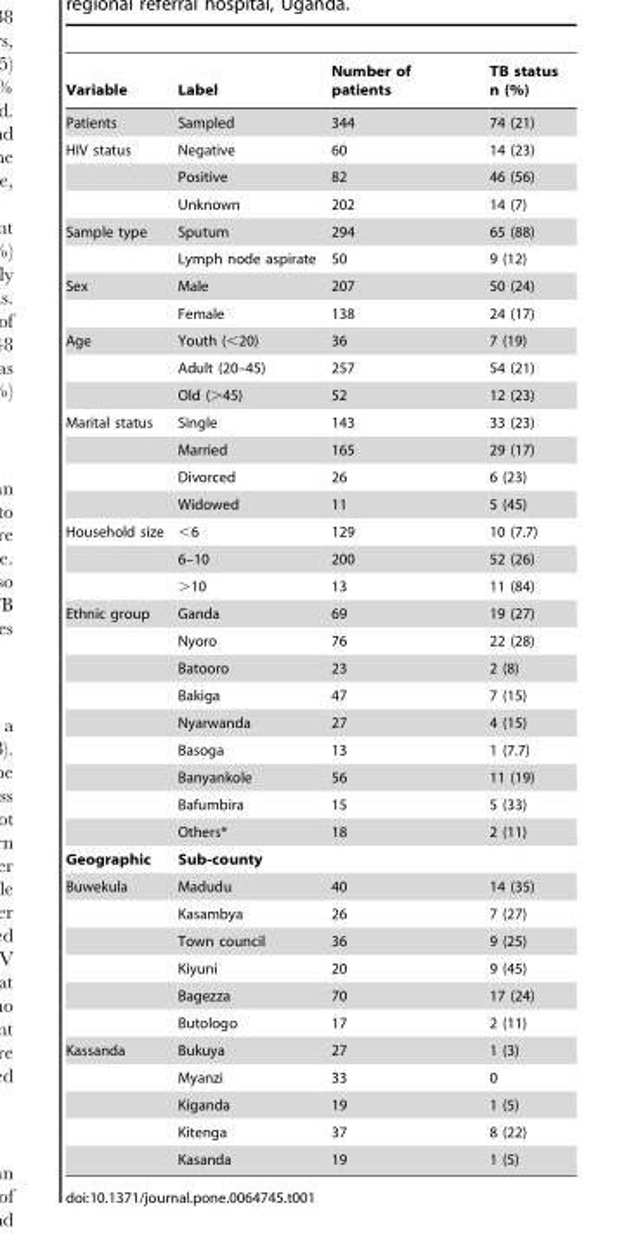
<table><thead><tr><td>Variable</td><td>Label</td><td>Number of patients</td><td>TB status n (%)</td></tr></thead><tbody><tr><td>Patients</td><td>Sampled</td><td>344</td><td>74 (21)</td></tr><tr><td rowspan="3">HIV status</td><td>Negative</td><td>60</td><td>14 (23)</td></tr><tr><td>Positive</td><td>82</td><td>46 (56)</td></tr><tr><td>Unknown</td><td>202</td><td>14 (7)</td></tr><tr><td rowspan="2">Sample type</td><td>Sputum</td><td>294</td><td>65 (88)</td></tr><tr><td>Lymph node aspirate</td><td>50</td><td>9 (12)</td></tr><tr><td rowspan="2">Sex</td><td>Male</td><td>207</td><td>50 (24)</td></tr><tr><td>Female</td><td>138</td><td>24 (17)</td></tr><tr><td rowspan="3">Age</td><td>Youth (&lt;20)</td><td>36</td><td>7 (19)</td></tr><tr><td>Adult (20–45)</td><td>257</td><td>54 (21)</td></tr><tr><td>Old (&gt;45)</td><td>52</td><td>12 (23)</td></tr><tr><td rowspan="4">Marital status</td><td>Single</td><td>143</td><td>33 (23)</td></tr><tr><td>Married</td><td>165</td><td>29 (17)</td></tr><tr><td>Divorced</td><td>26</td><td>6 (23)</td></tr><tr><td>Widowed</td><td>11</td><td>5 (45)</td></tr><tr><td rowspan="3">Household size</td><td>&lt;6</td><td>129</td><td>10 (7.7)</td></tr><tr><td>6–10</td><td>200</td><td>52 (26)</td></tr><tr><td>&gt;10</td><td>13</td><td>11 (84)</td></tr><tr><td rowspan="9">Ethnic group</td><td>Ganda</td><td>69</td><td>19 (27)</td></tr><tr><td>Nyoro</td><td>76</td><td>22 (28)</td></tr><tr><td>Batooro</td><td>23</td><td>2 (8)</td></tr><tr><td>Bakiga</td><td>47</td><td>7 (15)</td></tr><tr><td>Nyarwanda</td><td>27</td><td>4 (15)</td></tr><tr><td>Basoga</td><td>13</td><td>1 (7.7)</td></tr><tr><td>Banyankole</td><td>56</td><td>11 (19)</td></tr><tr><td>Bafumbira</td><td>15</td><td>5 (33)</td></tr><tr><td>Others*</td><td>18</td><td>2 (11)</td></tr><tr><td>Geographic</td><td>Sub-county</td><td></td><td></td></tr><tr><td rowspan="6">Buwekula</td><td>Madudu</td><td>40</td><td>14 (35)</td></tr><tr><td>Kasambya</td><td>26</td><td>7 (27)</td></tr><tr><td>Town council</td><td>36</td><td>9 (25)</td></tr><tr><td>Kiyuni</td><td>20</td><td>9 (45)</td></tr><tr><td>Bagezza</td><td>70</td><td>17 (24)</td></tr><tr><td>Butologo</td><td>17</td><td>2 (11)</td></tr><tr><td rowspan="5">Kassanda</td><td>Bukuya</td><td>27</td><td>1 (3)</td></tr><tr><td>Myanzi</td><td>33</td><td>0</td></tr><tr><td>Kiganda</td><td>19</td><td>1 (5)</td></tr><tr><td>Kitenga</td><td>37</td><td>8 (22)</td></tr><tr><td>Kasanda</td><td>19</td><td>1 (5)</td></tr></tbody></table>